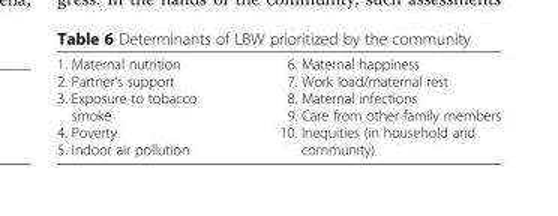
<table><tbody><tr><td>1. Maternal nutrition 2. Partner’s support 3. Exposure to tobacco smoke 4. Poverty 5. Indoor air pollution</td><td>6. Maternal happiness 7. Work load/maternal rest 8. Maternal infections 9. Care from other family members 10. Inequities (in household and community)</td></tr></tbody></table>